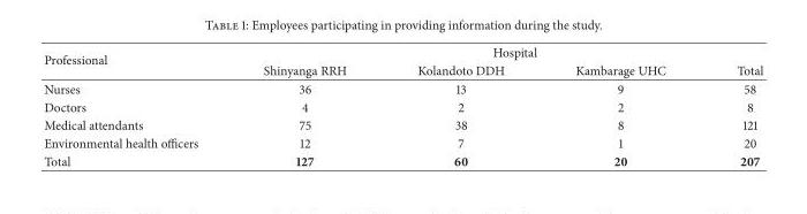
<table><thead><tr><td rowspan="2">Professional</td><td colspan="4">Hospital</td></tr><tr><td>Shinyanga RRH</td><td>Kolandoto DDH</td><td>Kambarage UHC</td><td>Total</td></tr></thead><tbody><tr><td>Nurses</td><td>36</td><td>13</td><td>9</td><td>58</td></tr><tr><td>Doctors</td><td>4</td><td>2</td><td>2</td><td>8</td></tr><tr><td>Medical attendants</td><td>75</td><td>38</td><td>8</td><td>121</td></tr><tr><td>Environmental health officers</td><td>12</td><td>7</td><td>1</td><td>20</td></tr><tr><td>Total</td><td>127</td><td>60</td><td>20</td><td>207</td></tr></tbody></table>